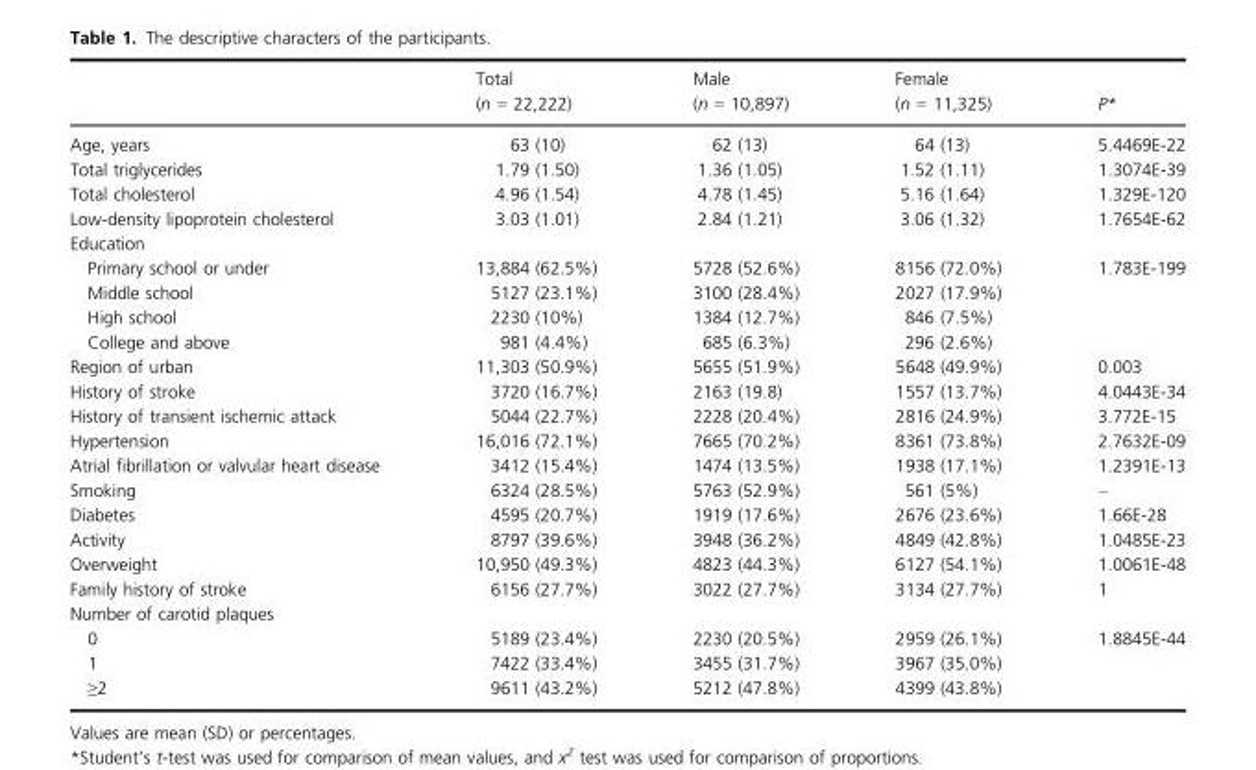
<table><thead><tr><td rowspan="2"></td><td rowspan="2">Total (n = 22,222)</td><td rowspan="2">Male (n = 10,897)</td><td rowspan="2">Female (n = 11,325)</td><td rowspan="2">P*</td></tr><tr></tr></thead><tbody><tr><td>Age, years</td><td>63 (10)</td><td>62 (13)</td><td>64 (13)</td><td>5.4469E-22</td></tr><tr><td>Total triglycerides</td><td>1.79 (1.50)</td><td>1.36 (1.05)</td><td>1.52 (1.11)</td><td>1.3074E-39</td></tr><tr><td>Total cholesterol</td><td>4.96 (1.54)</td><td>4.78 (1.45)</td><td>5.16 (1.64)</td><td>1.329E-120</td></tr><tr><td>Low-density lipoprotein cholesterol</td><td>3.03 (1.01)</td><td>2.84 (1.21)</td><td>3.06 (1.32)</td><td>1.7654E-62</td></tr><tr><td colspan="5">Education</td></tr><tr><td>Primary school or under</td><td>13,884 (62.5%)</td><td>5728 (52.6%)</td><td>8156 (72.0%)</td><td rowspan="4">1.783E-199</td></tr><tr><td>Middle school</td><td>5127 (23.1%)</td><td>3100 (28.4%)</td><td>2027 (17.9%)</td></tr><tr><td>High school</td><td>2230 (10%)</td><td>1384 (12.7%)</td><td>846 (7.5%)</td></tr><tr><td>College and above</td><td>981 (4.4%)</td><td>685 (6.3%)</td><td>296 (2.6%)</td></tr><tr><td>Region of urban</td><td>11,303 (50.9%)</td><td>5655 (51.9%)</td><td>5648 (49.9%)</td><td>0.003</td></tr><tr><td>History of stroke</td><td>3720 (16.7%)</td><td>2163 (19.8)</td><td>1557 (13.7%)</td><td>4.0443E-34</td></tr><tr><td>History of transient ischemic attack</td><td>5044 (22.7%)</td><td>2228 (20.4%)</td><td>2816 (24.9%)</td><td>3.772E-15</td></tr><tr><td>Hypertension</td><td>16,016 (72.1%)</td><td>7665 (70.2%)</td><td>8361 (73.8%)</td><td>2.7632E-09</td></tr><tr><td>Atrial fibrillation or valvular heart disease</td><td>3412 (15.4%)</td><td>1474 (13.5%)</td><td>1938 (17.1%)</td><td>1.2391E-13</td></tr><tr><td>Smoking</td><td>6324 (28.5%)</td><td>5763 (52.9%)</td><td>561 (5%)</td><td>–</td></tr><tr><td>Diabetes</td><td>4595 (20.7%)</td><td>1919 (17.6%)</td><td>2676 (23.6%)</td><td>1.66E-28</td></tr><tr><td>Activity</td><td>8797 (39.6%)</td><td>3948 (36.2%)</td><td>4849 (42.8%)</td><td>1.0485E-23</td></tr><tr><td>Overweight</td><td>10,950 (49.3%)</td><td>4823 (44.3%)</td><td>6127 (54.1%)</td><td>1.0061E-48</td></tr><tr><td>Family history of stroke</td><td>6156 (27.7%)</td><td>3022 (27.7%)</td><td>3134 (27.7%)</td><td>1</td></tr><tr><td colspan="5">Number of carotid plaques</td></tr><tr><td>0</td><td>5189 (23.4%)</td><td>2230 (20.5%)</td><td>2959 (26.1%)</td><td rowspan="3">1.8845E-44</td></tr><tr><td>1</td><td>7422 (33.4%)</td><td>3455 (31.7%)</td><td>3967 (35.0%)</td></tr><tr><td>≥2</td><td>9611 (43.2%)</td><td>5212 (47.8%)</td><td>4399 (43.8%)</td></tr></tbody></table>